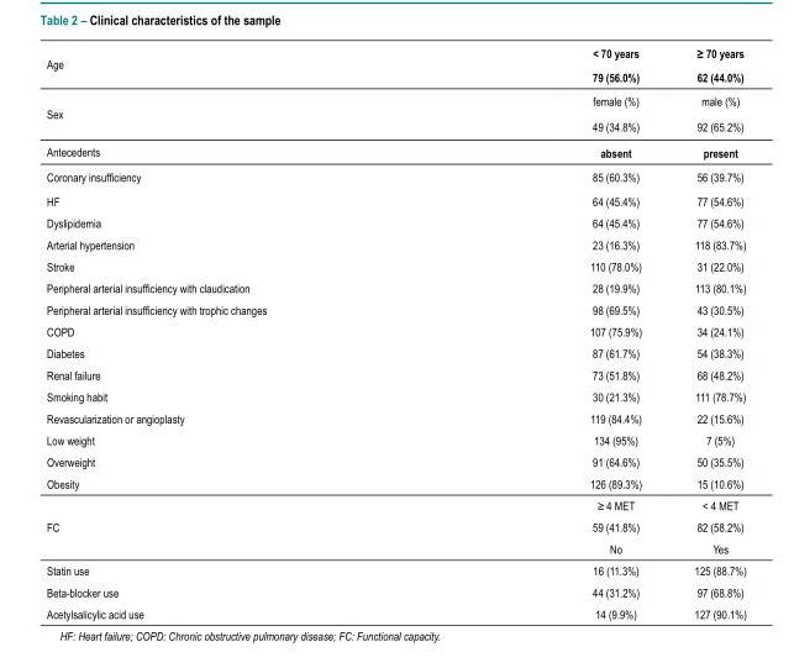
<table><thead><tr><td rowspan="5">Age Sex Antecedents</td><td rowspan="5">&lt; 70 years 79 (56.0%) female (%) 49 (34.8%) absent</td><td rowspan="5">≥ 70 years 62 (44.0%) male (%) 92 (65.2%) present</td></tr><tr></tr><tr></tr><tr></tr><tr></tr></thead><tbody><tr><td>Coronary insufficiency</td><td>85 (60.3%)</td><td>56 (39.7%)</td></tr><tr><td>HF</td><td>64 (45.4%)</td><td>77 (54.6%)</td></tr><tr><td>Dyslipidemia</td><td>64 (45.4%)</td><td>77 (54.6%)</td></tr><tr><td>Arterial hypertension</td><td>23 (16.3%)</td><td>118 (83.7%)</td></tr><tr><td>Stroke</td><td>110 (78.0%)</td><td>31 (22.0%)</td></tr><tr><td>Peripheral arterial insufficiency with claudication</td><td>28 (19.9%)</td><td>113 (80.1%)</td></tr><tr><td>Peripheral arterial insufficiency with trophic changes</td><td>98 (69.5%)</td><td>43 (30.5%)</td></tr><tr><td>COPD</td><td>107 (75.9%)</td><td>34 (24.1%)</td></tr><tr><td>Diabetes</td><td>87 (61.7%)</td><td>54 (38.3%)</td></tr><tr><td>Renal failure</td><td>73 (51.8%)</td><td>68 (48.2%)</td></tr><tr><td>Smoking habit</td><td>30 (21.3%)</td><td>111 (78.7%)</td></tr><tr><td>Revascularization or angioplasty</td><td>119 (84.4%)</td><td>22 (15.6%)</td></tr><tr><td>Low weight</td><td>134 (95%)</td><td>7 (5%)</td></tr><tr><td>Overweight</td><td>91 (64.6%)</td><td>50 (35.5%)</td></tr><tr><td>Obesity</td><td>126 (89.3%)</td><td>15 (10.6%)</td></tr><tr><td rowspan="3">FC</td><td>≥ 4 MET</td><td>&lt; 4 MET</td></tr><tr><td>59 (41.8%)</td><td>82 (58.2%)</td></tr><tr><td>No</td><td>Yes</td></tr><tr><td>Statin use</td><td>16 (11.3%)</td><td>125 (88.7%)</td></tr><tr><td>Beta-blocker use</td><td>44 (31.2%)</td><td>97 (68.8%)</td></tr><tr><td>Acetylsalicylic acid use</td><td>14 (9.9%)</td><td>127 (90.1%)</td></tr></tbody></table>